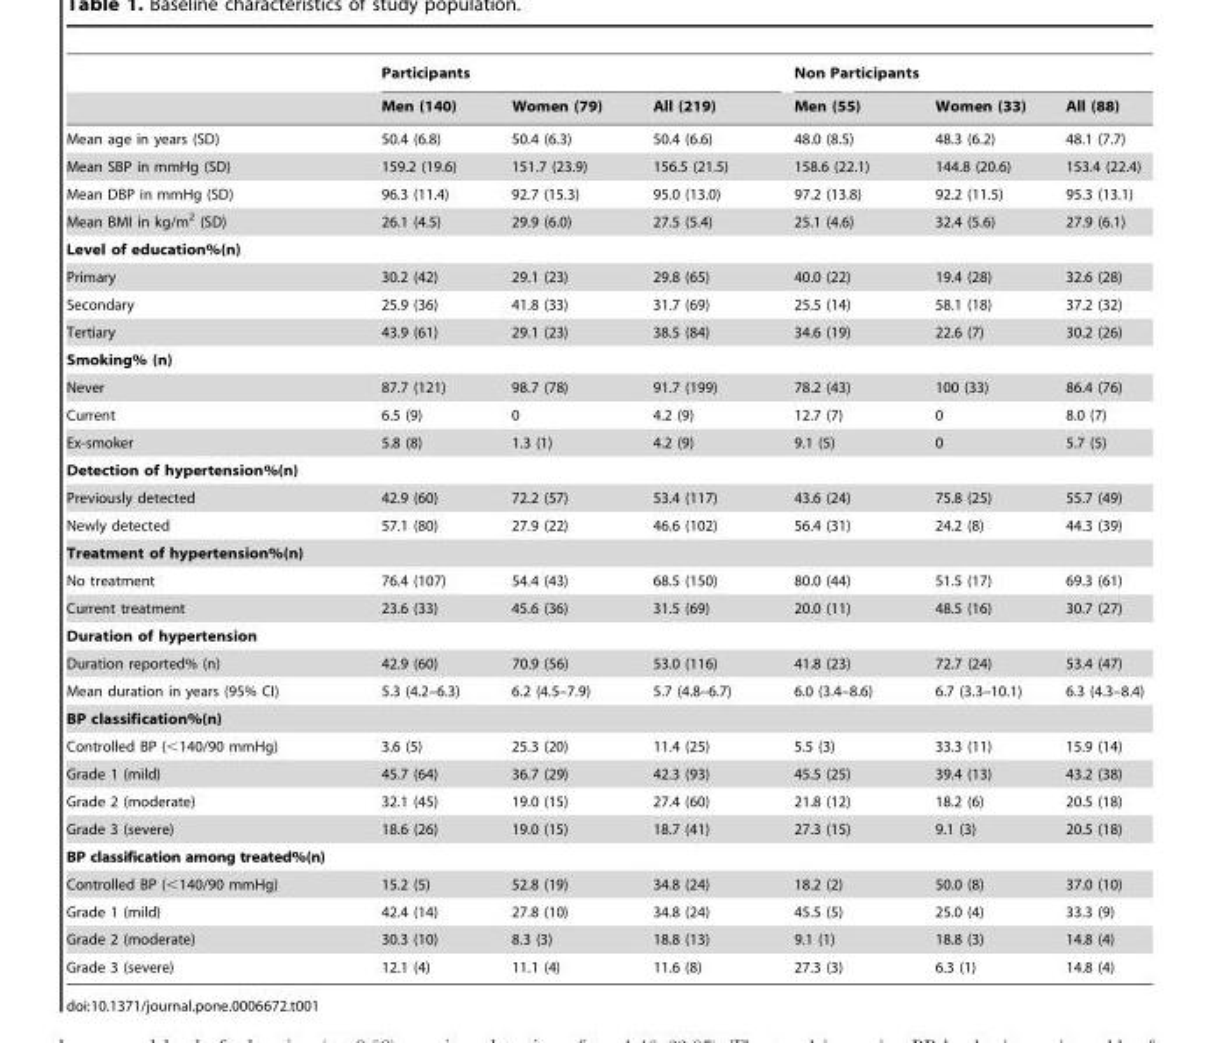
<table><thead><tr><td rowspan="2"></td><td colspan="3">Participants</td><td colspan="3">Non Participants</td></tr><tr><td>Men (140)</td><td>Women (79)</td><td>All (219)</td><td>Men (55)</td><td>Women (33)</td><td>All (88)</td></tr></thead><tbody><tr><td>Mean age in years (SD)</td><td>50.4 (6.8)</td><td>50.4 (6.3)</td><td>50.4 (6.6)</td><td>48.0 (8.5)</td><td>48.3 (6.2)</td><td>48.1 (7.7)</td></tr><tr><td>Mean SBP in mmHg (SD)</td><td>159.2 (19.6)</td><td>151.7 (23.9)</td><td>156.5 (21.5)</td><td>158.6 (22.1)</td><td>144.8 (20.6)</td><td>153.4 (22.4)</td></tr><tr><td>Mean DBP in mmHg (SD)</td><td>96.3 (11.4)</td><td>92.7 (15.3)</td><td>95.0 (13.0)</td><td>97.2 (13.8)</td><td>92.2 (11.5)</td><td>95.3 (13.1)</td></tr><tr><td>Mean BMI in kg/m<sup>2</sup> (SD)</td><td>26.1 (4.5)</td><td>29.9 (6.0)</td><td>27.5 (5.4)</td><td>25.1 (4.6)</td><td>32.4 (5.6)</td><td>27.9 (6.1)</td></tr><tr><td colspan="7">Level of education%(n)</td></tr><tr><td>Primary</td><td>30.2 (42)</td><td>29.1 (23)</td><td>29.8 (65)</td><td>40.0 (22)</td><td>19.4 (28)</td><td>32.6 (28)</td></tr><tr><td>Secondary</td><td>25.9 (36)</td><td>41.8 (33)</td><td>31.7 (69)</td><td>25.5 (14)</td><td>58.1 (18)</td><td>37.2 (32)</td></tr><tr><td>Tertiary</td><td>43.9 (61)</td><td>29.1 (23)</td><td>38.5 (84)</td><td>34.6 (19)</td><td>22.6 (7)</td><td>30.2 (26)</td></tr><tr><td colspan="7">Smoking% (n)</td></tr><tr><td>Never</td><td>87.7 (121)</td><td>98.7 (78)</td><td>91.7 (199)</td><td>78.2 (43)</td><td>100 (33)</td><td>86.4 (76)</td></tr><tr><td>Current</td><td>6.5 (9)</td><td>0</td><td>4.2 (9)</td><td>12.7 (7)</td><td>0</td><td>8.0 (7)</td></tr><tr><td>Ex-smoker</td><td>5.8 (8)</td><td>1.3 (1)</td><td>4.2 (9)</td><td>9.1 (5)</td><td>0</td><td>5.7 (5)</td></tr><tr><td colspan="7">Detection of hypertension%(n)</td></tr><tr><td>Previously detected</td><td>42.9 (60)</td><td>72.2 (57)</td><td>53.4 (117)</td><td>43.6 (24)</td><td>75.8 (25)</td><td>55.7 (49)</td></tr><tr><td>Newly detected</td><td>57.1 (80)</td><td>27.9 (22)</td><td>46.6 (102)</td><td>56.4 (31)</td><td>24.2 (8)</td><td>44.3 (39)</td></tr><tr><td colspan="7">Treatment of hypertension%(n)</td></tr><tr><td>No treatment</td><td>76.4 (107)</td><td>54.4 (43)</td><td>68.5 (150)</td><td>80.0 (44)</td><td>51.5 (17)</td><td>69.3 (61)</td></tr><tr><td>Current treatment</td><td>23.6 (33)</td><td>45.6 (36)</td><td>31.5 (69)</td><td>20.0 (11)</td><td>48.5 (16)</td><td>30.7 (27)</td></tr><tr><td colspan="7">Duration of hypertension</td></tr><tr><td>Duration reported% (n)</td><td>42.9 (60)</td><td>70.9 (56)</td><td>53.0 (116)</td><td>41.8 (23)</td><td>72.7 (24)</td><td>53.4 (47)</td></tr><tr><td>Mean duration in years (95% CI)</td><td>5.3 (4.2–6.3)</td><td>6.2 (4.5–7.9)</td><td>5.7 (4.8–6.7)</td><td>6.0 (3.4–8.6)</td><td>6.7 (3.3–10.1)</td><td>6.3 (4.3–8.4)</td></tr><tr><td colspan="7">BP classification%(n)</td></tr><tr><td>Controlled BP (&lt;140/90 mmHg)</td><td>3.6 (5)</td><td>25.3 (20)</td><td>11.4 (25)</td><td>5.5 (3)</td><td>33.3 (11)</td><td>15.9 (14)</td></tr><tr><td>Grade 1 (mild)</td><td>45.7 (64)</td><td>36.7 (29)</td><td>42.3 (93)</td><td>45.5 (25)</td><td>39.4 (13)</td><td>43.2 (38)</td></tr><tr><td>Grade 2 (moderate)</td><td>32.1 (45)</td><td>19.0 (15)</td><td>27.4 (60)</td><td>21.8 (12)</td><td>18.2 (6)</td><td>20.5 (18)</td></tr><tr><td>Grade 3 (severe)</td><td>18.6 (26)</td><td>19.0 (15)</td><td>18.7 (41)</td><td>27.3 (15)</td><td>9.1 (3)</td><td>20.5 (18)</td></tr><tr><td colspan="7">BP classification among treated%(n)</td></tr><tr><td>Controlled BP (&lt;140/90 mmHg)</td><td>15.2 (5)</td><td>52.8 (19)</td><td>34.8 (24)</td><td>18.2 (2)</td><td>50.0 (8)</td><td>37.0 (10)</td></tr><tr><td>Grade 1 (mild)</td><td>42.4 (14)</td><td>27.8 (10)</td><td>34.8 (24)</td><td>45.5 (5)</td><td>25.0 (4)</td><td>33.3 (9)</td></tr><tr><td>Grade 2 (moderate)</td><td>30.3 (10)</td><td>8.3 (3)</td><td>18.8 (13)</td><td>9.1 (1)</td><td>18.8 (3)</td><td>14.8 (4)</td></tr><tr><td>Grade 3 (severe)</td><td>12.1 (4)</td><td>11.1 (4)</td><td>11.6 (8)</td><td>27.3 (3)</td><td>6.3 (1)</td><td>14.8 (4)</td></tr></tbody></table>